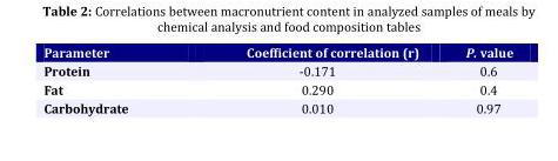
<table><tbody><tr><td>Parameter</td><td>Coefficient of correlation (r)</td><td>P. value</td></tr><tr><td>Protein</td><td>-0.171</td><td>0.6</td></tr><tr><td>Fat</td><td>0.290</td><td>0.4</td></tr><tr><td>Carbohydrate</td><td>0.010</td><td>0.97</td></tr></tbody></table>